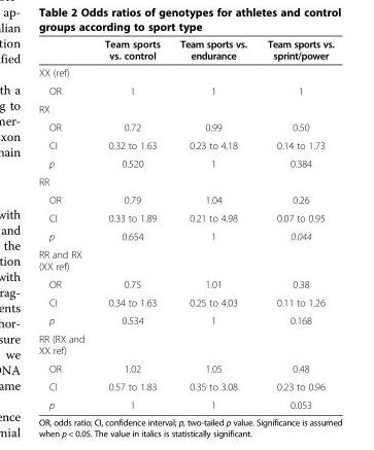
<table><thead><tr><td></td><td>Team sports vs. control</td><td>Team sports vs. endurance</td><td>Team sports vs. sprint/power</td></tr></thead><tbody><tr><td colspan="4">XX (ref)</td></tr><tr><td>OR</td><td>1</td><td>1</td><td>1</td></tr><tr><td colspan="4">RX</td></tr><tr><td>OR</td><td>0.72</td><td>0.99</td><td>0.50</td></tr><tr><td>CI</td><td>0.32 to 1.63</td><td>0.23 to 4.18</td><td>0.14 to 1.73</td></tr><tr><td>p</td><td>0.520</td><td>1</td><td>0.384</td></tr><tr><td colspan="4">RR</td></tr><tr><td>OR</td><td>0.79</td><td>1.04</td><td>0.26</td></tr><tr><td>CI</td><td>0.33 to 1.89</td><td>0.21 to 4.98</td><td>0.07 to 0.95</td></tr><tr><td>p</td><td>0.654</td><td>1</td><td>0.044</td></tr><tr><td colspan="4">RR and RX (XX ref)</td></tr><tr><td>OR</td><td>0.75</td><td>1.01</td><td>0.38</td></tr><tr><td>CI</td><td>0.34 to 1.63</td><td>0.25 to 4.03</td><td>0.11 to 1.26</td></tr><tr><td>p</td><td>0.534</td><td>1</td><td>0.168</td></tr><tr><td colspan="4">RR (RX and XX ref)</td></tr><tr><td>OR</td><td>1.02</td><td>1.05</td><td>0.48</td></tr><tr><td>CI</td><td>0.57 to 1.83</td><td>0.35 to 3.08</td><td>0.23 to 0.96</td></tr><tr><td>p</td><td>1</td><td>1</td><td>0.053</td></tr></tbody></table>